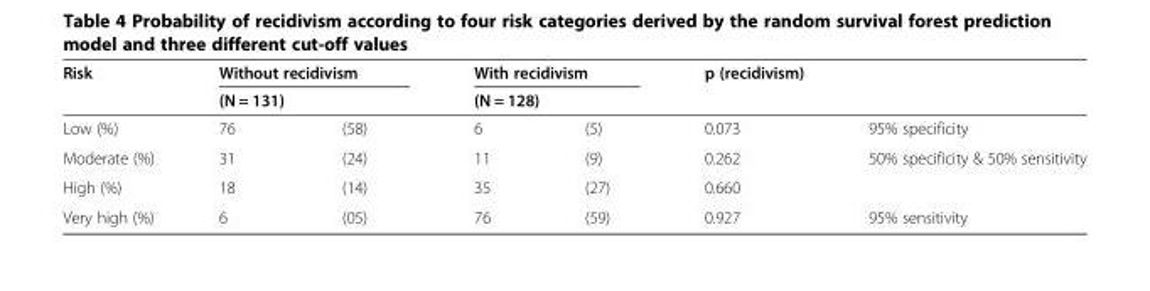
<table><thead><tr><td rowspan="3">Risk Low (%)</td><td rowspan="2" colspan="2">Without recidivism (N = 131)</td><td rowspan="2" colspan="2">With recidivism (N = 128)</td><td rowspan="3">p (recidivism) 0.073</td><td rowspan="3">95% specificity</td></tr><tr></tr><tr><td>76</td><td>(58)</td><td>6</td><td>(5)</td></tr></thead><tbody><tr><td>Moderate (%)</td><td>31</td><td>(24)</td><td>11</td><td>(9)</td><td>0.262</td><td rowspan="2">50% specificity &amp; 50% sensitivity</td></tr><tr><td>High (%)</td><td>18</td><td>(14)</td><td>35</td><td>(27)</td><td>0.660</td></tr><tr><td>Very high (%)</td><td>6</td><td>(05)</td><td>76</td><td>(59)</td><td>0.927</td><td>95% sensitivity</td></tr></tbody></table>